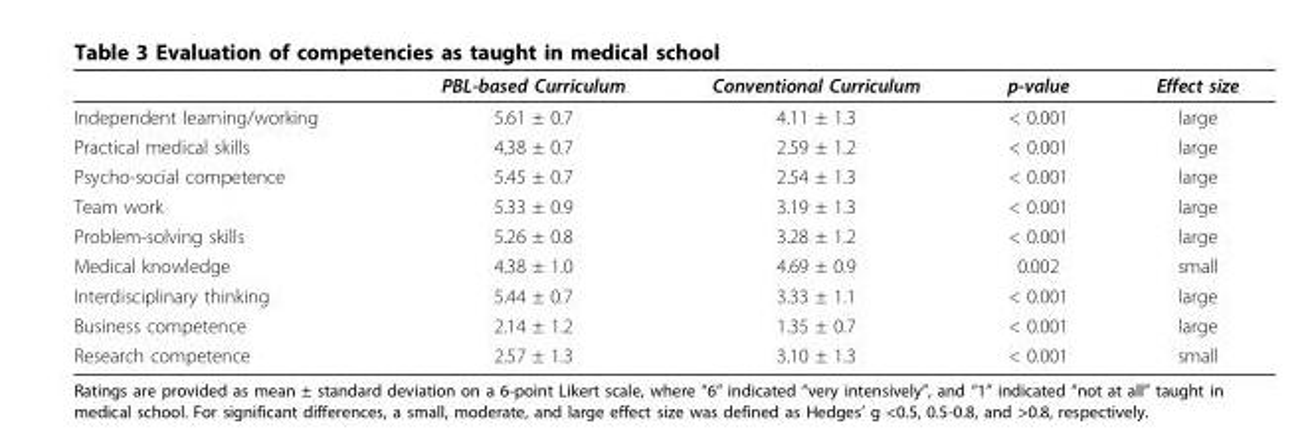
<table><thead><tr><td></td><td>PBL-based Curriculum</td><td>Conventional Curriculum</td><td>p-value</td><td>Effect size</td></tr></thead><tbody><tr><td>Independent learning/working</td><td>5.61 ± 0.7</td><td>4.11 ± 1.3</td><td>&lt; 0.001</td><td>large</td></tr><tr><td>Practical medical skills</td><td>4.38 ± 0.7</td><td>2.59 ± 1.2</td><td>&lt; 0.001</td><td>large</td></tr><tr><td>Psycho-social competence</td><td>5.45 ± 0.7</td><td>2.54 ± 1.3</td><td>&lt; 0.001</td><td>large</td></tr><tr><td>Team work</td><td>5.33 ± 0.9</td><td>3.19 ± 1.3</td><td>&lt; 0.001</td><td>large</td></tr><tr><td>Problem-solving skills</td><td>5.26 ± 0.8</td><td>3.28 ± 1.2</td><td>&lt; 0.001</td><td>large</td></tr><tr><td>Medical knowledge</td><td>4.38 ± 1.0</td><td>4.69 ± 0.9</td><td>0.002</td><td>small</td></tr><tr><td>Interdisciplinary thinking</td><td>5.44 ± 0.7</td><td>3.33 ± 1.1</td><td>&lt; 0.001</td><td>large</td></tr><tr><td>Business competence</td><td>2.14 ± 1.2</td><td>1.35 ± 0.7</td><td>&lt; 0.001</td><td>large</td></tr><tr><td>Research competence</td><td>2.57 ± 1.3</td><td>3.10 ± 1.3</td><td>&lt; 0.001</td><td>small</td></tr></tbody></table>